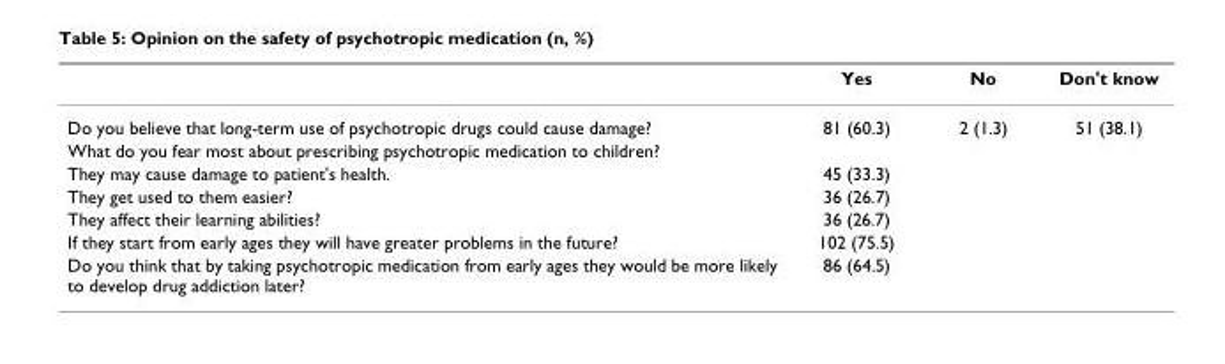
<table><thead><tr><td></td><td>Yes</td><td>No</td><td>Don&#x27;t know</td></tr></thead><tbody><tr><td>Do you believe that long-term use of psychotropic drugs could cause damage?</td><td>81 (60.3)</td><td>2 (1.3)</td><td>51 (38.1)</td></tr><tr><td colspan="4">What do you fear most about prescribing psychotropic medication to children?</td></tr><tr><td>They may cause damage to patient&#x27;s health.</td><td>45 (33.3)</td><td></td><td></td></tr><tr><td>They get used to them easier?</td><td>36 (26.7)</td><td></td><td></td></tr><tr><td>They affect their learning abilities?</td><td>36 (26.7)</td><td></td><td></td></tr><tr><td>If they start from early ages they will have greater problems in the future?</td><td>102 (75.5)</td><td></td><td></td></tr><tr><td>Do you think that by taking psychotropic medication from early ages they would be more likely to develop drug addiction later?</td><td>86 (64.5)</td><td></td><td></td></tr></tbody></table>